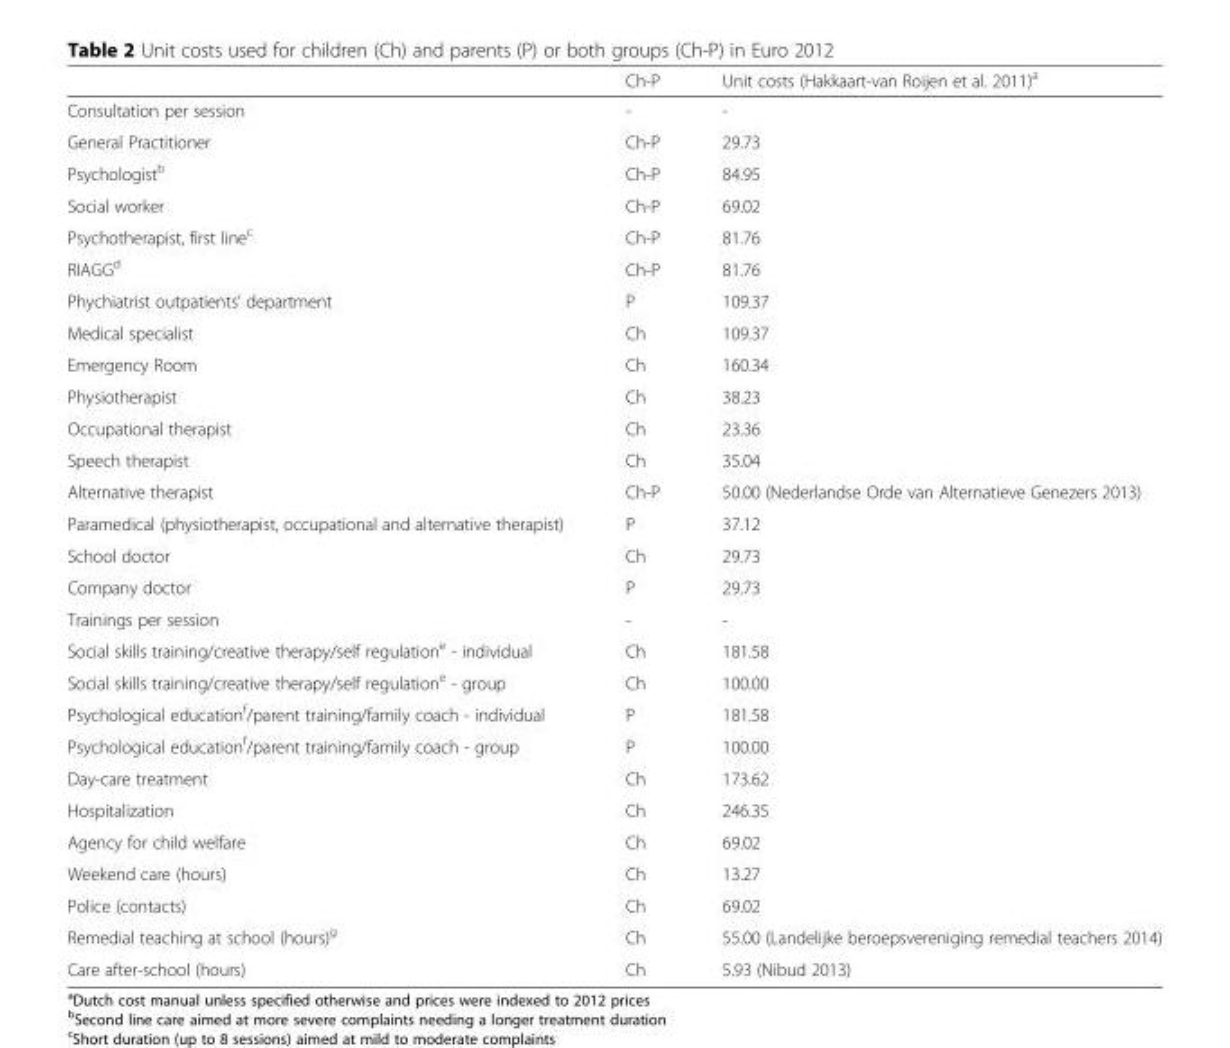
<table><thead><tr><td></td><td>Ch-P</td><td>Unit costs (Hakkaart-van Roijen et al. 2011)<sup>a</sup></td></tr></thead><tbody><tr><td>Consultation per session</td><td>-</td><td>-</td></tr><tr><td>General Practitioner</td><td>Ch-P</td><td>29.73</td></tr><tr><td>Psychologist<sup>b</sup></td><td>Ch-P</td><td>84.95</td></tr><tr><td>Social worker</td><td>Ch-P</td><td>69.02</td></tr><tr><td>Psychotherapist, first line<sup>c</sup></td><td>Ch-P</td><td>81.76</td></tr><tr><td>RIAGG<sup>d</sup></td><td>Ch-P</td><td>81.76</td></tr><tr><td>Phychiatrist outpatients’ department</td><td>P</td><td>109.37</td></tr><tr><td>Medical specialist</td><td>Ch</td><td>109.37</td></tr><tr><td>Emergency Room</td><td>Ch</td><td>160.34</td></tr><tr><td>Physiotherapist</td><td>Ch</td><td>38.23</td></tr><tr><td>Occupational therapist</td><td>Ch</td><td>23.36</td></tr><tr><td>Speech therapist</td><td>Ch</td><td>35.04</td></tr><tr><td>Alternative therapist</td><td>Ch-P</td><td>50.00 (Nederlandse Orde van Alternatieve Genezers 2013)</td></tr><tr><td>Paramedical (physiotherapist, occupational and alternative therapist)</td><td>P</td><td>37.12</td></tr><tr><td>School doctor</td><td>Ch</td><td>29.73</td></tr><tr><td>Company doctor</td><td>P</td><td>29.73</td></tr><tr><td>Trainings per session</td><td>-</td><td>-</td></tr><tr><td>Social skills training/creative therapy/self regulation<sup>e</sup> - individual</td><td>Ch</td><td>181.58</td></tr><tr><td>Social skills training/creative therapy/self regulation<sup>e</sup> - group</td><td>Ch</td><td>100.00</td></tr><tr><td>Psychological education<sup>f</sup>/parent training/family coach - individual</td><td>P</td><td>181.58</td></tr><tr><td>Psychological education<sup>f</sup>/parent training/family coach - group</td><td>P</td><td>100.00</td></tr><tr><td>Day-care treatment</td><td>Ch</td><td>173.62</td></tr><tr><td>Hospitalization</td><td>Ch</td><td>246.35</td></tr><tr><td>Agency for child welfare</td><td>Ch</td><td>69.02</td></tr><tr><td>Weekend care (hours)</td><td>Ch</td><td>13.27</td></tr><tr><td>Police (contacts)</td><td>Ch</td><td>69.02</td></tr><tr><td>Remedial teaching at school (hours)<sup>g</sup></td><td>Ch</td><td>55.00 (Landelijke beroepsvereniging remedial teachers 2014)</td></tr><tr><td>Care after-school (hours)</td><td>Ch</td><td>5.93 (Nibud 2013)</td></tr></tbody></table>